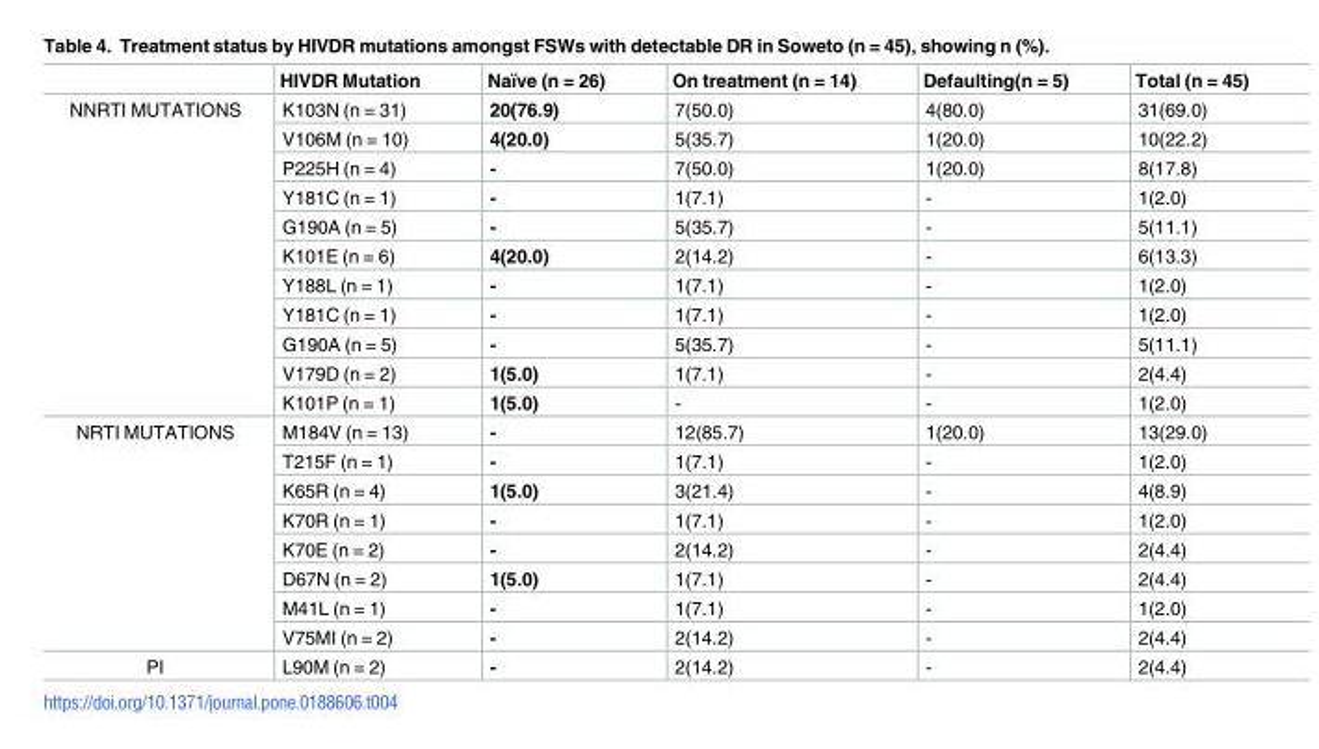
<table><thead><tr><td></td><td>HIVDR Mutation</td><td>Naïve (n = 26)</td><td>On treatment (n = 14)</td><td>Defaulting(n = 5)</td><td>Total (n = 45)</td></tr></thead><tbody><tr><td rowspan="11">NNRTI MUTATIONS</td><td>K103N (n = 31)</td><td>20(76.9)</td><td>7(50.0)</td><td>4(80.0)</td><td>31(69.0)</td></tr><tr><td>V106M (n = 10)</td><td>4(20.0)</td><td>5(35.7)</td><td>1(20.0)</td><td>10(22.2)</td></tr><tr><td>P225H (n = 4)</td><td>-</td><td>7(50.0)</td><td>1(20.0)</td><td>8(17.8)</td></tr><tr><td>Y181C (n = 1)</td><td>-</td><td>1(7.1)</td><td>-</td><td>1(2.0)</td></tr><tr><td>G190A (n = 5)</td><td>-</td><td>5(35.7)</td><td>-</td><td>5(11.1)</td></tr><tr><td>K101E (n = 6)</td><td>4(20.0)</td><td>2(14.2)</td><td>-</td><td>6(13.3)</td></tr><tr><td>Y188L (n = 1)</td><td>-</td><td>1(7.1)</td><td>-</td><td>1(2.0)</td></tr><tr><td>Y181C (n = 1)</td><td>-</td><td>1(7.1)</td><td>-</td><td>1(2.0)</td></tr><tr><td>G190A (n = 5)</td><td>-</td><td>5(35.7)</td><td>-</td><td>5(11.1)</td></tr><tr><td>V179D (n = 2)</td><td>1(5.0)</td><td>1(7.1)</td><td>-</td><td>2(4.4)</td></tr><tr><td>K101P (n = 1)</td><td>1(5.0)</td><td>-</td><td>-</td><td>1(2.0)</td></tr><tr><td rowspan="8">NRTI MUTATIONS</td><td>M184V (n = 13)</td><td>-</td><td>12(85.7)</td><td>1(20.0)</td><td>13(29.0)</td></tr><tr><td>T215F (n = 1)</td><td>-</td><td>1(7.1)</td><td>-</td><td>1(2.0)</td></tr><tr><td>K65R (n = 4)</td><td>1(5.0)</td><td>3(21.4)</td><td>-</td><td>4(8.9)</td></tr><tr><td>K70R (n = 1)</td><td>-</td><td>1(7.1)</td><td>-</td><td>1(2.0)</td></tr><tr><td>K70E (n = 2)</td><td>-</td><td>2(14.2)</td><td>-</td><td>2(4.4)</td></tr><tr><td>D67N (n = 2)</td><td>1(5.0)</td><td>1(7.1)</td><td>-</td><td>2(4.4)</td></tr><tr><td>M41L (n = 1)</td><td>-</td><td>1(7.1)</td><td>-</td><td>1(2.0)</td></tr><tr><td>V75MI (n = 2)</td><td>-</td><td>2(14.2)</td><td>-</td><td>2(4.4)</td></tr><tr><td>PI</td><td>L90M (n = 2)</td><td>-</td><td>2(14.2)</td><td>-</td><td>2(4.4)</td></tr></tbody></table>